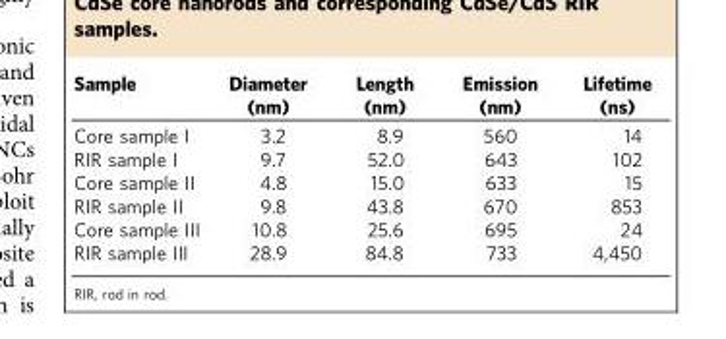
<table><thead><tr><td>Sample</td><td>Diameter (nm)</td><td>Length (nm)</td><td>Emission (nm)</td><td>Lifetime (ns)</td></tr></thead><tbody><tr><td>Core sample I</td><td>3.2</td><td>8.9</td><td>560</td><td>14</td></tr><tr><td>RIR sample I</td><td>9.7</td><td>52.0</td><td>643</td><td>102</td></tr><tr><td>Core sample II</td><td>4.8</td><td>15.0</td><td>633</td><td>15</td></tr><tr><td>RIR sample II</td><td>9.8</td><td>43.8</td><td>670</td><td>853</td></tr><tr><td>Core sample III</td><td>10.8</td><td>25.6</td><td>695</td><td>24</td></tr><tr><td>RIR sample III</td><td>28.9</td><td>84.8</td><td>733</td><td>4,450</td></tr></tbody></table>